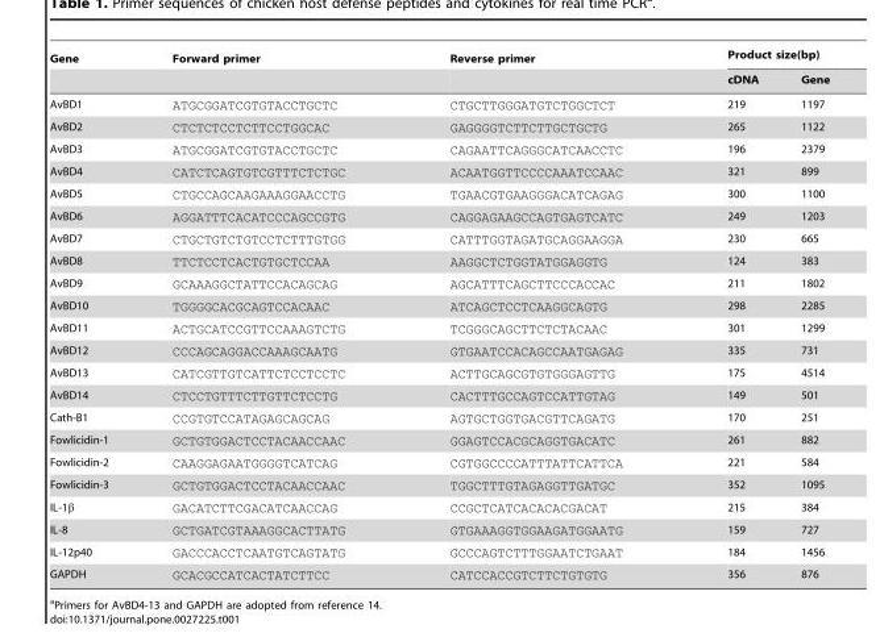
<table><thead><tr><td rowspan="2">Gene</td><td rowspan="2">Forward primer</td><td rowspan="2">Reverse primer</td><td colspan="2">Product size(bp)</td></tr><tr><td>cDNA</td><td>Gene</td></tr></thead><tbody><tr><td>AvBD1</td><td>ATGCGGATCGTGTACCTGCTC</td><td>CTGCTTGGGATGTCTGGCTCT</td><td>219</td><td>1197</td></tr><tr><td>AvBD2</td><td>CTCTCTCCTCTTCCTGGCAC</td><td>GAGGGGTCTTCTTGCTGCTG</td><td>265</td><td>1122</td></tr><tr><td>AvBD3</td><td>ATGCGGATCGTGTACCTGCTC</td><td>CAGAATTCAGGGCATCAACCTC</td><td>196</td><td>2379</td></tr><tr><td>AvBD4</td><td>CATCTCAGTGTCGTTTCTCTGC</td><td>ACAATGGTTCCCCAAATCCAAC</td><td>321</td><td>899</td></tr><tr><td>AvBD5</td><td>CTGCCAGCAAGAAAGGAACCTG</td><td>TGAACGTGAAGGGACATCAGAG</td><td>300</td><td>1100</td></tr><tr><td>AvBD6</td><td>AGGATTTCACATCCCAGCCGTG</td><td>CAGGAGAAGCCAGTGAGTCATC</td><td>249</td><td>1203</td></tr><tr><td>AvBD7</td><td>CTGCTGTCTGTCCTCTTTGTGG</td><td>CATTTGGTAGATGCAGGAAGGA</td><td>230</td><td>665</td></tr><tr><td>AvBD8</td><td>TTCTCCTCACTGTGCTCCAA</td><td>AAGGCTCTGGTATGGAGGTG</td><td>124</td><td>383</td></tr><tr><td>AvBD9</td><td>GCAAAGGCTATTCCACAGCAG</td><td>AGCATTTCAGCTTCCCACCAC</td><td>211</td><td>1802</td></tr><tr><td>AvBD10</td><td>TGGGGCACGCAGTCCACAAC</td><td>ATCAGCTCCTCAAGGCAGTG</td><td>298</td><td>2285</td></tr><tr><td>AvBD11</td><td>ACTGCATCCGTTCCAAAGTCTG</td><td>TCGGGCAGCTTCTCTACAAC</td><td>301</td><td>1299</td></tr><tr><td>AvBD12</td><td>CCCAGCAGGACCAAAGCAATG</td><td>GTGAATCCACAGCCAATGAGAG</td><td>335</td><td>731</td></tr><tr><td>AvBD13</td><td>CATCGTTGTCATTCTCCTCCTC</td><td>ACTTGCAGCGTGTGGGAGTTG</td><td>175</td><td>4514</td></tr><tr><td>AvBD14</td><td>CTCCTGTTTCTTGTTCTCCTG</td><td>CACTTTGCCAGTCCATTGTAG</td><td>149</td><td>501</td></tr><tr><td>Cath-B1</td><td>CCGTGTCCATAGAGCAGCAG</td><td>AGTGCTGGTGACGTTCAGATG</td><td>170</td><td>251</td></tr><tr><td>Fowlicidin-1</td><td>GCTGTGGACTCCTACAACCAAC</td><td>GGAGTCCACGCAGGTGACATC</td><td>261</td><td>882</td></tr><tr><td>Fowlicidin-2</td><td>CAAGGAGAATGGGGTCATCAG</td><td>CGTGGCCCCATTTATTCATTCA</td><td>221</td><td>584</td></tr><tr><td>Fowlicidin-3</td><td>GCTGTGGACTCCTACAACCAAC</td><td>TGGCTTTGTAGAGGTTGATGC</td><td>352</td><td>1095</td></tr><tr><td>IL-1β</td><td>GACATCTTCGACATCAACCAG</td><td>CCGCTCATCACACACGACAT</td><td>215</td><td>384</td></tr><tr><td>IL-8</td><td>GCTGATCGTAAAGGCACTTATG</td><td>GTGAAAGGTGGAAGATGGAATG</td><td>159</td><td>727</td></tr><tr><td>IL-12p40</td><td>GACCCACCTCAATGTCAGTATG</td><td>GCCCAGTCTTTGGAATCTGAAT</td><td>184</td><td>1456</td></tr><tr><td>GAPDH</td><td>GCACGCCATCACTATCTTCC</td><td>CATCCACCGTCTTCTGTGTG</td><td>356</td><td>876</td></tr></tbody></table>